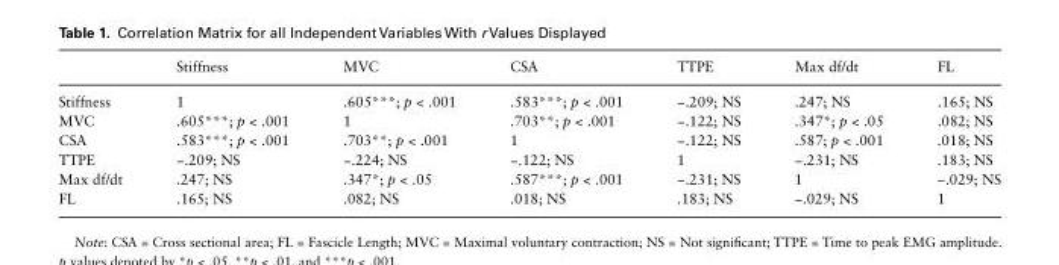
<table><thead><tr><td></td><td>Stiffness</td><td>MVC</td><td>CSA</td><td>TTPE</td><td>Max df/dt</td><td>FL</td></tr></thead><tbody><tr><td>Stiffness</td><td>1</td><td>.605***; p &lt; .001</td><td>.583***; p &lt; .001</td><td>−.209; NS</td><td>.247; NS</td><td>.165; NS</td></tr><tr><td>MVC</td><td>.605***; p &lt; .001</td><td>1</td><td>.703**; p &lt; .001</td><td>−.122; NS</td><td>.347*; p &lt; .05</td><td>.082; NS</td></tr><tr><td>CSA</td><td>.583***; p &lt; .001</td><td>.703**; p &lt; .001</td><td>1</td><td>−.122; NS</td><td>.587; p &lt; .001</td><td>.018; NS</td></tr><tr><td>TTPE</td><td>−.209; NS</td><td>−.224; NS</td><td>−.122; NS</td><td>1</td><td>−.231; NS</td><td>.183; NS</td></tr><tr><td>Max df/dt</td><td>.247; NS</td><td>.347*; p &lt; .05</td><td>.587***; p &lt; .001</td><td>−.231; NS</td><td>1</td><td>−.029; NS</td></tr><tr><td>FL</td><td>.165; NS</td><td>.082; NS</td><td>.018; NS</td><td>.183; NS</td><td>−.029; NS</td><td>1</td></tr></tbody></table>